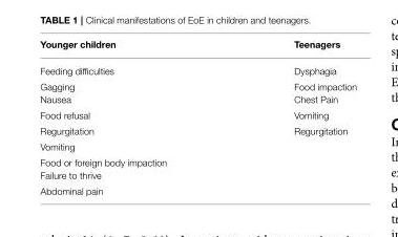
<table><thead><tr><td>Younger children</td><td>Teenagers</td></tr></thead><tbody><tr><td>Feeding difficulties</td><td>Dysphagia</td></tr><tr><td>Gagging Nausea</td><td>Food impaction Chest Pain</td></tr><tr><td>Food refusal</td><td>Vomiting</td></tr><tr><td>Regurgitation</td><td>Regurgitation</td></tr><tr><td colspan="2">Vomiting</td></tr><tr><td colspan="2">Food or foreign body impaction</td></tr><tr><td colspan="2">Failure to thrive</td></tr><tr><td>Abdominal pain</td><td></td></tr></tbody></table>